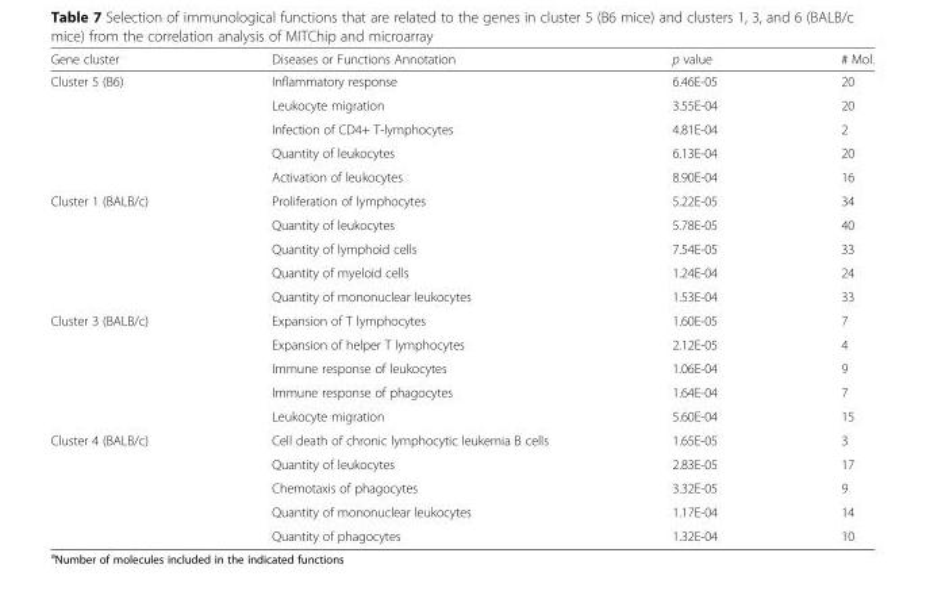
<table><thead><tr><td>Gene cluster</td><td>Diseases or Functions Annotation</td><td>p value</td><td># Mol.</td></tr></thead><tbody><tr><td rowspan="5">Cluster 5 (B6)</td><td>Inflammatory response</td><td>6.46E-05</td><td>20</td></tr><tr><td>Leukocyte migration</td><td>3.55E-04</td><td>20</td></tr><tr><td>Infection of CD4+ T-lymphocytes</td><td>4.81E-04</td><td>2</td></tr><tr><td>Quantity of leukocytes</td><td>6.13E-04</td><td>20</td></tr><tr><td>Activation of leukocytes</td><td>8.90E-04</td><td>16</td></tr><tr><td rowspan="5">Cluster 1 (BALB/c)</td><td>Proliferation of lymphocytes</td><td>5.22E-05</td><td>34</td></tr><tr><td>Quantity of leukocytes</td><td>5.78E-05</td><td>40</td></tr><tr><td>Quantity of lymphoid cells</td><td>7.54E-05</td><td>33</td></tr><tr><td>Quantity of myeloid cells</td><td>1.24E-04</td><td>24</td></tr><tr><td>Quantity of mononuclear leukocytes</td><td>1.53E-04</td><td>33</td></tr><tr><td rowspan="5">Cluster 3 (BALB/c)</td><td>Expansion of T lymphocytes</td><td>1.60E-05</td><td>7</td></tr><tr><td>Expansion of helper T lymphocytes</td><td>2.12E-05</td><td>4</td></tr><tr><td>Immune response of leukocytes</td><td>1.06E-04</td><td>9</td></tr><tr><td>Immune response of phagocytes</td><td>1.64E-04</td><td>7</td></tr><tr><td>Leukocyte migration</td><td>5.60E-04</td><td>15</td></tr><tr><td rowspan="5">Cluster 4 (BALB/c)</td><td>Cell death of chronic lymphocytic leukemia B cells</td><td>1.65E-05</td><td>3</td></tr><tr><td>Quantity of leukocytes</td><td>2.83E-05</td><td>17</td></tr><tr><td>Chemotaxis of phagocytes</td><td>3.32E-05</td><td>9</td></tr><tr><td>Quantity of mononuclear leukocytes</td><td>1.17E-04</td><td>14</td></tr><tr><td>Quantity of phagocytes</td><td>1.32E-04</td><td>10</td></tr></tbody></table>